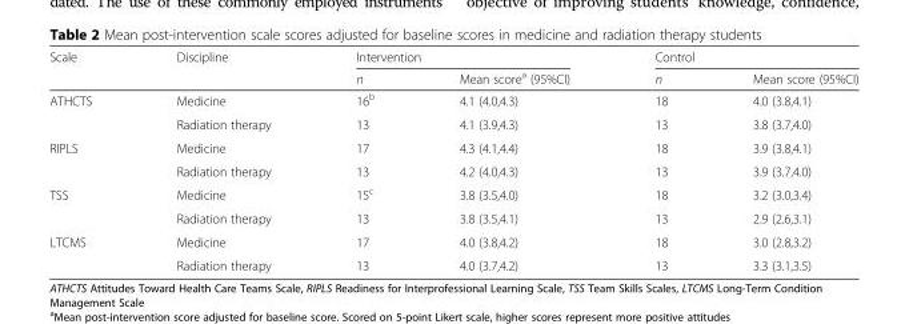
<table><thead><tr><td rowspan="2">Scale</td><td rowspan="2">Discipline</td><td colspan="2">Intervention</td><td colspan="2">Control</td></tr><tr><td>n</td><td>Mean score<sup>a</sup> (95%CI)</td><td>n</td><td>Mean score (95%CI)</td></tr></thead><tbody><tr><td rowspan="2">ATHCTS</td><td>Medicine</td><td>16<sup>b</sup></td><td>4.1 (4.0,4.3)</td><td>18</td><td>4.0 (3.8,4.1)</td></tr><tr><td>Radiation therapy</td><td>13</td><td>4.1 (3.9,4.3)</td><td>13</td><td>3.8 (3.7,4.0)</td></tr><tr><td rowspan="2">RIPLS</td><td>Medicine</td><td>17</td><td>4.3 (4.1,4.4)</td><td>18</td><td>3.9 (3.8,4.1)</td></tr><tr><td>Radiation therapy</td><td>13</td><td>4.2 (4.0,4.3)</td><td>13</td><td>3.9 (3.7,4.0)</td></tr><tr><td rowspan="2">TSS</td><td>Medicine</td><td>15<sup>c</sup></td><td>3.8 (3.5,4.0)</td><td>18</td><td>3.2 (3.0,3.4)</td></tr><tr><td>Radiation therapy</td><td>13</td><td>3.8 (3.5,4.1)</td><td>13</td><td>2.9 (2.6,3.1)</td></tr><tr><td rowspan="2">LTCMS</td><td>Medicine</td><td>17</td><td>4.0 (3.8,4.2)</td><td>18</td><td>3.0 (2.8,3.2)</td></tr><tr><td>Radiation therapy</td><td>13</td><td>4.0 (3.7,4.2)</td><td>13</td><td>3.3 (3.1,3.5)</td></tr></tbody></table>